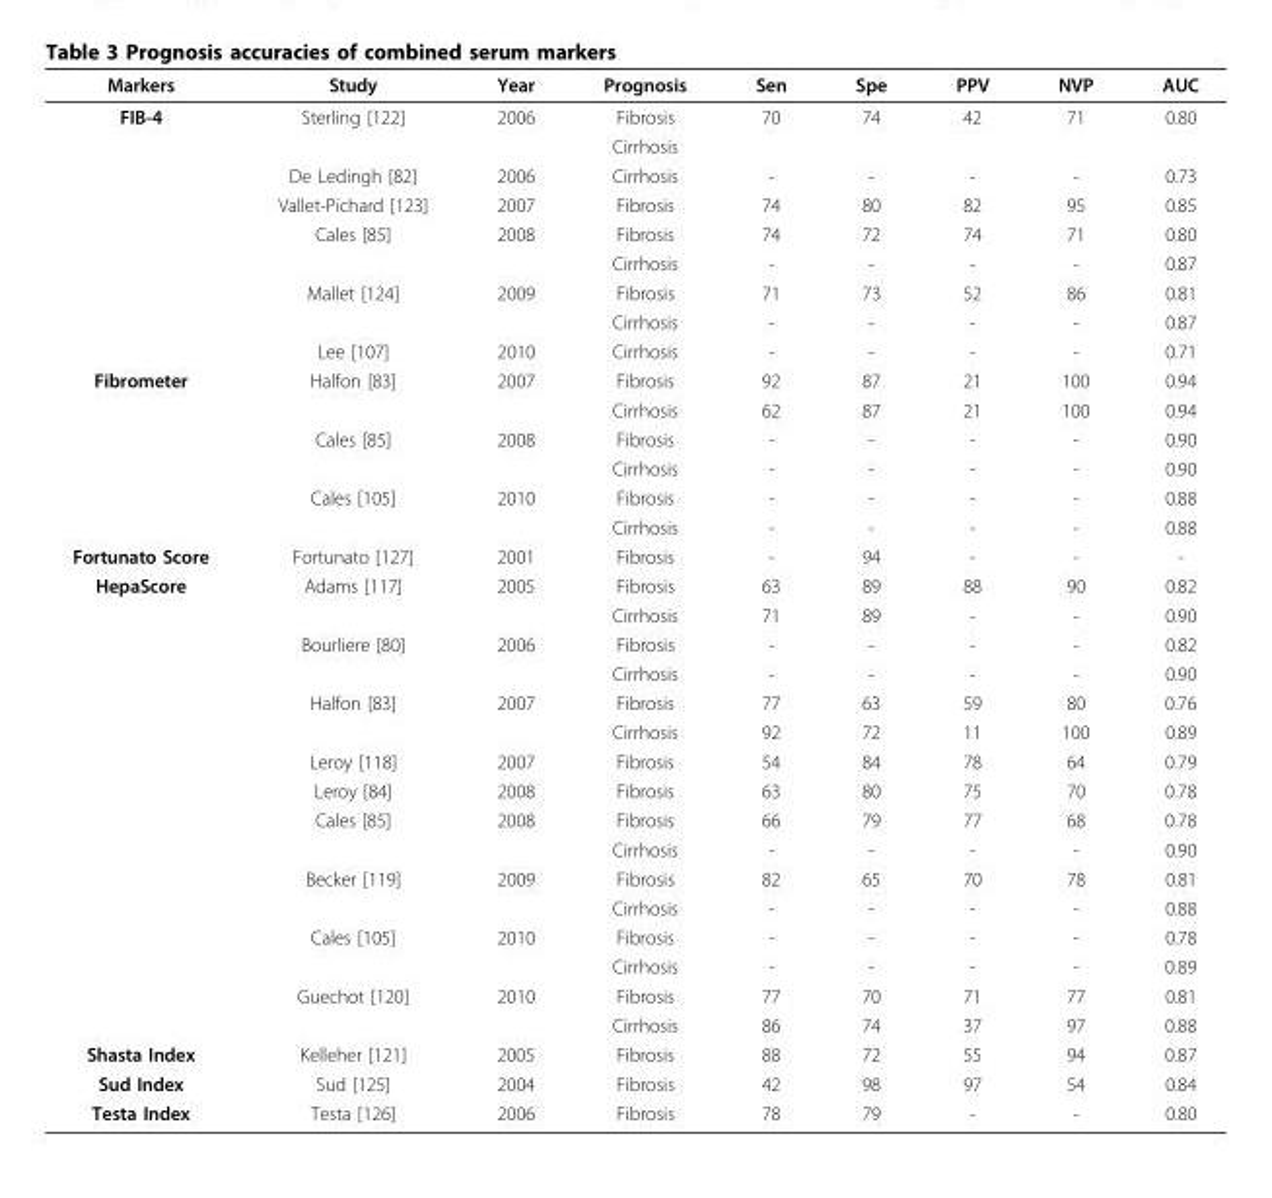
<table><thead><tr><td>Markers</td><td>Study</td><td>Year</td><td>Prognosis</td><td>Sen</td><td>Spe</td><td>PPV</td><td>NVP</td><td>AUC</td></tr></thead><tbody><tr><td rowspan="9">FIB-4</td><td>Sterling [122]</td><td>2006</td><td>Fibrosis</td><td>70</td><td>74</td><td>42</td><td>71</td><td>0.80</td></tr><tr><td></td><td></td><td>Cirrhosis</td><td></td><td></td><td></td><td></td><td></td></tr><tr><td>De Ledingh [82]</td><td>2006</td><td>Cirrhosis</td><td>-</td><td>-</td><td>-</td><td>-</td><td>0.73</td></tr><tr><td>Vallet-Pichard [123]</td><td>2007</td><td>Fibrosis</td><td>74</td><td>80</td><td>82</td><td>95</td><td>0.85</td></tr><tr><td>Cales [85]</td><td>2008</td><td>Fibrosis</td><td>74</td><td>72</td><td>74</td><td>71</td><td>0.80</td></tr><tr><td></td><td></td><td>Cirrhosis</td><td>-</td><td>-</td><td>-</td><td>-</td><td>0.87</td></tr><tr><td>Mallet [124]</td><td>2009</td><td>Fibrosis</td><td>71</td><td>73</td><td>52</td><td>86</td><td>0.81</td></tr><tr><td></td><td></td><td>Cirrhosis</td><td>-</td><td>-</td><td>-</td><td>-</td><td>0.87</td></tr><tr><td>Lee [107]</td><td>2010</td><td>Cirrhosis</td><td>-</td><td>-</td><td>-</td><td>-</td><td>0.71</td></tr><tr><td rowspan="6">Fibrometer</td><td>Halfon [83]</td><td>2007</td><td>Fibrosis</td><td>92</td><td>87</td><td>21</td><td>100</td><td>0.94</td></tr><tr><td></td><td></td><td>Cirrhosis</td><td>62</td><td>87</td><td>21</td><td>100</td><td>0.94</td></tr><tr><td>Cales [85]</td><td>2008</td><td>Fibrosis</td><td>-</td><td>-</td><td>-</td><td>-</td><td>0.90</td></tr><tr><td></td><td></td><td>Cirrhosis</td><td>-</td><td>-</td><td>-</td><td>-</td><td>0.90</td></tr><tr><td>Cales [105]</td><td>2010</td><td>Fibrosis</td><td>-</td><td>-</td><td>-</td><td>-</td><td>0.88</td></tr><tr><td></td><td></td><td>Cirrhosis</td><td>-</td><td>-</td><td>-</td><td>-</td><td>0.88</td></tr><tr><td>Fortunato Score</td><td>Fortunato [127]</td><td>2001</td><td>Fibrosis</td><td>-</td><td>94</td><td>-</td><td>-</td><td>-</td></tr><tr><td rowspan="16">HepaScore</td><td>Adams [117]</td><td>2005</td><td>Fibrosis</td><td>63</td><td>89</td><td>88</td><td>90</td><td>0.82</td></tr><tr><td></td><td></td><td>Cirrhosis</td><td>71</td><td>89</td><td>-</td><td>-</td><td>0.90</td></tr><tr><td>Bourliere [80]</td><td>2006</td><td>Fibrosis</td><td>-</td><td>-</td><td>-</td><td>-</td><td>0.82</td></tr><tr><td></td><td></td><td>Cirrhosis</td><td>-</td><td>-</td><td>-</td><td>-</td><td>0.90</td></tr><tr><td>Halfon [83]</td><td>2007</td><td>Fibrosis</td><td>77</td><td>63</td><td>59</td><td>80</td><td>0.76</td></tr><tr><td></td><td></td><td>Cirrhosis</td><td>92</td><td>72</td><td>11</td><td>100</td><td>0.89</td></tr><tr><td>Leroy [118]</td><td>2007</td><td>Fibrosis</td><td>54</td><td>84</td><td>78</td><td>64</td><td>0.79</td></tr><tr><td>Leroy [84]</td><td>2008</td><td>Fibrosis</td><td>63</td><td>80</td><td>75</td><td>70</td><td>0.78</td></tr><tr><td>Cales [85]</td><td>2008</td><td>Fibrosis</td><td>66</td><td>79</td><td>77</td><td>68</td><td>0.78</td></tr><tr><td></td><td></td><td>Cirrhosis</td><td>-</td><td>-</td><td>-</td><td>-</td><td>0.90</td></tr><tr><td>Becker [119]</td><td>2009</td><td>Fibrosis</td><td>82</td><td>65</td><td>70</td><td>78</td><td>0.81</td></tr><tr><td></td><td></td><td>Cirrhosis</td><td>-</td><td>-</td><td>-</td><td>-</td><td>0.88</td></tr><tr><td>Cales [105]</td><td>2010</td><td>Fibrosis</td><td>-</td><td>-</td><td>-</td><td>-</td><td>0.78</td></tr><tr><td></td><td></td><td>Cirrhosis</td><td>-</td><td>-</td><td>-</td><td>-</td><td>0.89</td></tr><tr><td>Guechot [120]</td><td>2010</td><td>Fibrosis</td><td>77</td><td>70</td><td>71</td><td>77</td><td>0.81</td></tr><tr><td></td><td></td><td>Cirrhosis</td><td>86</td><td>74</td><td>37</td><td>97</td><td>0.88</td></tr><tr><td>Shasta Index</td><td>Kelleher [121]</td><td>2005</td><td>Fibrosis</td><td>88</td><td>72</td><td>55</td><td>94</td><td>0.87</td></tr><tr><td>Sud Index</td><td>Sud [125]</td><td>2004</td><td>Fibrosis</td><td>42</td><td>98</td><td>97</td><td>54</td><td>0.84</td></tr><tr><td>Testa Index</td><td>Testa [126]</td><td>2006</td><td>Fibrosis</td><td>78</td><td>79</td><td>-</td><td>-</td><td>0.80</td></tr></tbody></table>